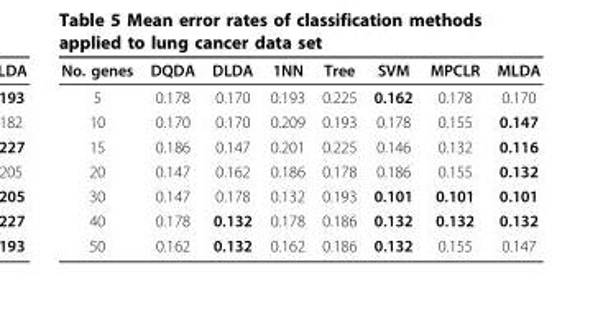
<table><thead><tr><td>No. genes</td><td>DQDA</td><td>DLDA</td><td>1NN</td><td>Tree</td><td>SVM</td><td>MPCLR</td><td>MLDA</td></tr></thead><tbody><tr><td>5</td><td>0.178</td><td>0.170</td><td>0.193</td><td>0.225</td><td>0.162</td><td>0.178</td><td>0.170</td></tr><tr><td>10</td><td>0.170</td><td>0.170</td><td>0.209</td><td>0.193</td><td>0.178</td><td>0.155</td><td>0.147</td></tr><tr><td>15</td><td>0.186</td><td>0.147</td><td>0.201</td><td>0.225</td><td>0.146</td><td>0.132</td><td>0.116</td></tr><tr><td>20</td><td>0.147</td><td>0.162</td><td>0.186</td><td>0.178</td><td>0.186</td><td>0.155</td><td>0.132</td></tr><tr><td>30</td><td>0.147</td><td>0.178</td><td>0.132</td><td>0.193</td><td>0.101</td><td>0.101</td><td>0.101</td></tr><tr><td>40</td><td>0.178</td><td>0.132</td><td>0.178</td><td>0.186</td><td>0.132</td><td>0.132</td><td>0.132</td></tr><tr><td>50</td><td>0.162</td><td>0.132</td><td>0.162</td><td>0.186</td><td>0.132</td><td>0.155</td><td>0.147</td></tr></tbody></table>